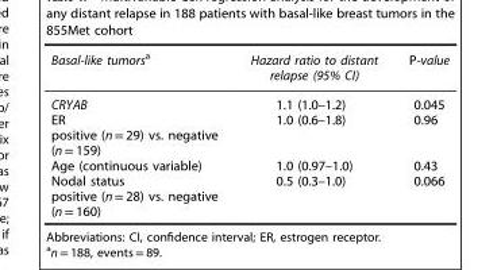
<table><thead><tr><td>Basal-like tumors<sup>a</sup></td><td>Hazard ratio to distant relapse (95% CI)</td><td>P-value</td></tr></thead><tbody><tr><td>CRYAB</td><td>1.1 (1.0–1.2)</td><td>0.045</td></tr><tr><td>ER positive (n = 29) vs. negative (n = 159)</td><td>1.0 (0.6–1.8)</td><td>0.96</td></tr><tr><td>Age (continuous variable)</td><td>1.0 (0.97–1.0)</td><td>0.43</td></tr><tr><td>Nodal status positive (n = 28) vs. negative (n = 160)</td><td>0.5 (0.3–1.0)</td><td>0.066</td></tr></tbody></table>